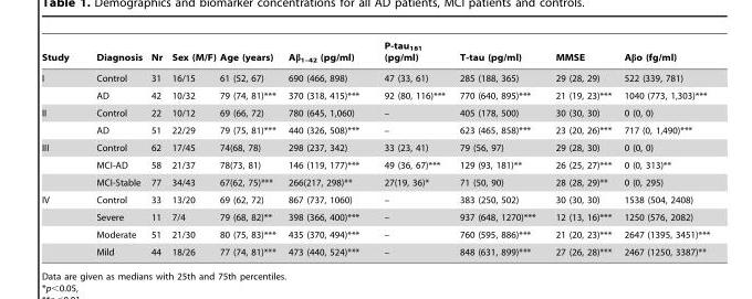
<table><thead><tr><td>Study</td><td>Diagnosis</td><td>Nr</td><td>Sex (M/F)</td><td>Age (years)</td><td>Aβ<sub>1–42</sub> (pg/ml)</td><td>P-tau<sub>181</sub> (pg/ml)</td><td>T-tau (pg/ml)</td><td>MMSE</td><td>Aβo (fg/ml)</td></tr></thead><tbody><tr><td rowspan="2">I</td><td>Control</td><td>31</td><td>16/15</td><td>61 (52, 67)</td><td>690 (466, 898)</td><td>47 (33, 61)</td><td>285 (188, 365)</td><td>29 (28, 29)</td><td>522 (339, 781)</td></tr><tr><td>AD</td><td>42</td><td>10/32</td><td>79 (74, 81)***</td><td>370 (318, 415)***</td><td>92 (80, 116)***</td><td>770 (640, 895)***</td><td>21 (19, 23)***</td><td>1040 (773, 1,303)***</td></tr><tr><td rowspan="2">II</td><td>Control</td><td>22</td><td>10/12</td><td>69 (66, 72)</td><td>780 (645, 1,060)</td><td>–</td><td>405 (178, 500)</td><td>30 (30, 30)</td><td>0 (0, 0)</td></tr><tr><td>AD</td><td>51</td><td>22/29</td><td>79 (75, 81)***</td><td>440 (326, 508)***</td><td>–</td><td>623 (465, 858)***</td><td>23 (20, 26)***</td><td>717 (0, 1,490)***</td></tr><tr><td rowspan="3">III</td><td>Control</td><td>62</td><td>17/45</td><td>74(68, 78)</td><td>298 (237, 342)</td><td>33 (23, 41)</td><td>79 (56, 97)</td><td>29 (28, 30)</td><td>0 (0, 0)</td></tr><tr><td>MCI-AD</td><td>58</td><td>21/37</td><td>78(73, 81)</td><td>146 (119, 177)***</td><td>49 (36, 67)***</td><td>129 (93, 181)**</td><td>26 (25, 27)***</td><td>0 (0, 313)**</td></tr><tr><td>MCI-Stable</td><td>77</td><td>34/43</td><td>67(62, 75)***</td><td>266(217, 298)**</td><td>27(19, 36)*</td><td>71 (50, 90)</td><td>28 (28, 29)**</td><td>0 (0, 295)</td></tr><tr><td rowspan="4">IV</td><td>Control</td><td>33</td><td>13/20</td><td>69 (62, 72)</td><td>867 (737, 1060)</td><td>–</td><td>383 (250, 502)</td><td>30 (30, 30)</td><td>1538 (504, 2408)</td></tr><tr><td>Severe</td><td>11</td><td>7/4</td><td>79 (68, 82)**</td><td>398 (366, 400)***</td><td>–</td><td>937 (648, 1270)***</td><td>12 (13, 16)***</td><td>1250 (576, 2082)</td></tr><tr><td>Moderate</td><td>51</td><td>21/30</td><td>80 (75, 83)***</td><td>435 (370, 494)***</td><td>–</td><td>760 (595, 886)***</td><td>21 (20, 23)***</td><td>2647 (1395, 3451)***</td></tr><tr><td>Mild</td><td>44</td><td>18/26</td><td>77 (74, 81)***</td><td>473 (440, 524)***</td><td>–</td><td>848 (631, 899)***</td><td>27 (26, 28)***</td><td>2467 (1250, 3387)**</td></tr></tbody></table>